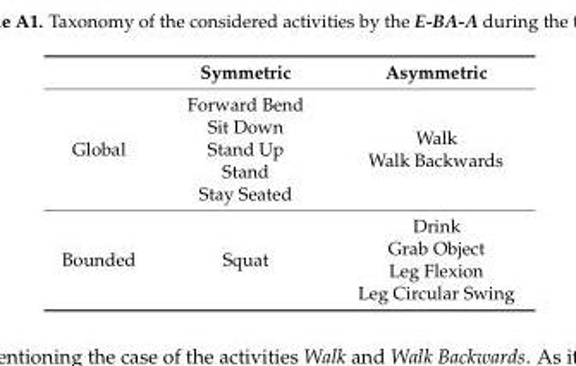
<table><thead><tr><td></td><td>Symmetric</td><td>Asymmetric</td></tr></thead><tbody><tr><td>Global</td><td>Forward Bend Sit Down Stand Up Stand Stay Seated</td><td>Walk Walk Backwards</td></tr><tr><td>Bounded</td><td>Squat</td><td>Drink Grab Object Leg Flexion Leg Circular Swing</td></tr></tbody></table>